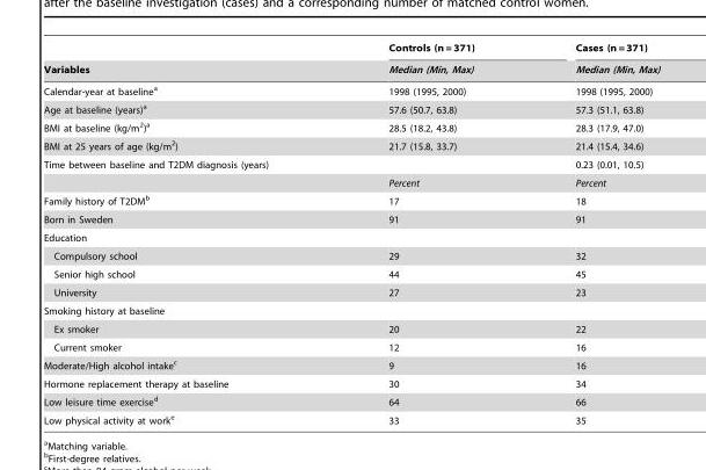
<table><thead><tr><td rowspan="2">Variables</td><td rowspan="2">Controls (n = 371) Median (Min, Max)</td><td rowspan="2">Cases (n = 371) Median (Min, Max)</td></tr><tr></tr></thead><tbody><tr><td>Calendar-year at baseline<sup>a</sup></td><td>1998 (1995, 2000)</td><td>1998 (1995, 2000)</td></tr><tr><td>Age at baseline (years)<sup>a</sup></td><td>57.6 (50.7, 63.8)</td><td>57.3 (51.1, 63.8)</td></tr><tr><td>BMI at baseline (kg/m<sup>2</sup>)<sup>a</sup></td><td>28.5 (18.2, 43.8)</td><td>28.3 (17.9, 47.0)</td></tr><tr><td>BMI at 25 years of age (kg/m<sup>2</sup>)</td><td>21.7 (15.8, 33.7)</td><td>21.4 (15.4, 34.6)</td></tr><tr><td rowspan="2">Time between baseline and T2DM diagnosis (years)</td><td></td><td>0.23 (0.01, 10.5)</td></tr><tr><td>Percent</td><td>Percent</td></tr><tr><td>Family history of T2DM<sup>b</sup></td><td>17</td><td>18</td></tr><tr><td>Born in Sweden</td><td>91</td><td>91</td></tr><tr><td colspan="3">Education</td></tr><tr><td>Compulsory school</td><td>29</td><td>32</td></tr><tr><td>Senior high school</td><td>44</td><td>45</td></tr><tr><td>University</td><td>27</td><td>23</td></tr><tr><td colspan="3">Smoking history at baseline</td></tr><tr><td>Ex smoker</td><td>20</td><td>22</td></tr><tr><td>Current smoker</td><td>12</td><td>16</td></tr><tr><td>Moderate/High alcohol intake<sup>c</sup></td><td>9</td><td>16</td></tr><tr><td>Hormone replacement therapy at baseline</td><td>30</td><td>34</td></tr><tr><td>Low leisure time exercise<sup>d</sup></td><td>64</td><td>66</td></tr><tr><td>Low physical activity at work<sup>e</sup></td><td>33</td><td>35</td></tr></tbody></table>